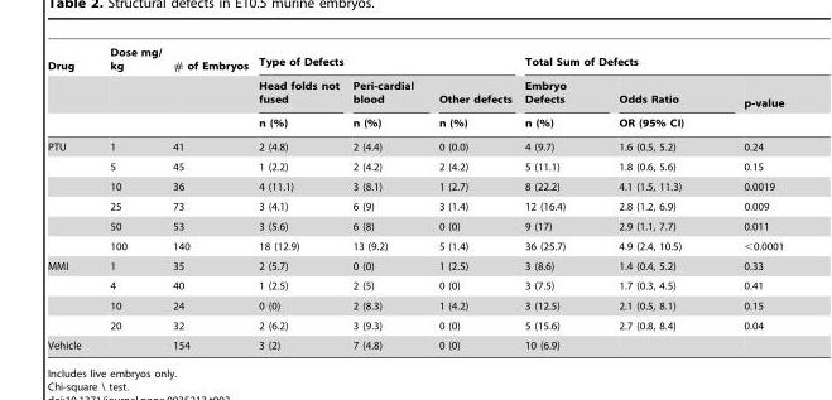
<table><thead><tr><td rowspan="3">Drug</td><td rowspan="3">Dose mg/ kg</td><td rowspan="3"># of Embryos</td><td colspan="3">Type of Defects</td><td colspan="3">Total Sum of Defects</td></tr><tr><td rowspan="2">Head folds not fused n (%)</td><td rowspan="2">Peri-cardial blood n (%)</td><td rowspan="2">Other defects n (%)</td><td rowspan="2">Embryo Defects n (%)</td><td rowspan="2">Odds Ratio OR (95% CI)</td><td rowspan="2">p-value</td></tr><tr></tr></thead><tbody><tr><td rowspan="6">PTU</td><td>1</td><td>41</td><td>2 (4.8)</td><td>2 (4.4)</td><td>0 (0.0)</td><td>4 (9.7)</td><td>1.6 (0.5, 5.2)</td><td>0.24</td></tr><tr><td>5</td><td>45</td><td>1 (2.2)</td><td>2 (4.2)</td><td>2 (4.2)</td><td>5 (11.1)</td><td>1.8 (0.6, 5.6)</td><td>0.15</td></tr><tr><td>10</td><td>36</td><td>4 (11.1)</td><td>3 (8.1)</td><td>1 (2.7)</td><td>8 (22.2)</td><td>4.1 (1.5, 11.3)</td><td>0.0019</td></tr><tr><td>25</td><td>73</td><td>3 (4.1)</td><td>6 (9)</td><td>3 (1.4)</td><td>12 (16.4)</td><td>2.8 (1.2, 6.9)</td><td>0.009</td></tr><tr><td>50</td><td>53</td><td>3 (5.6)</td><td>6 (8)</td><td>0 (0)</td><td>9 (17)</td><td>2.9 (1.1, 7.7)</td><td>0.011</td></tr><tr><td>100</td><td>140</td><td>18 (12.9)</td><td>13 (9.2)</td><td>5 (1.4)</td><td>36 (25.7)</td><td>4.9 (2.4, 10.5)</td><td>&lt;0.0001</td></tr><tr><td rowspan="4">MMI</td><td>1</td><td>35</td><td>2 (5.7)</td><td>0 (0)</td><td>1 (2.5)</td><td>3 (8.6)</td><td>1.4 (0.4, 5.2)</td><td>0.33</td></tr><tr><td>4</td><td>40</td><td>1 (2.5)</td><td>2 (5)</td><td>0 (0)</td><td>3 (7.5)</td><td>1.7 (0.3, 4.5)</td><td>0.41</td></tr><tr><td>10</td><td>24</td><td>0 (0)</td><td>2 (8.3)</td><td>1 (4.2)</td><td>3 (12.5)</td><td>2.1 (0.5, 8.1)</td><td>0.15</td></tr><tr><td>20</td><td>32</td><td>2 (6.2)</td><td>3 (9.3)</td><td>0 (0)</td><td>5 (15.6)</td><td>2.7 (0.8, 8.4)</td><td>0.04</td></tr><tr><td>Vehicle</td><td></td><td>154</td><td>3 (2)</td><td>7 (4.8)</td><td>0 (0)</td><td>10 (6.9)</td><td></td><td></td></tr></tbody></table>